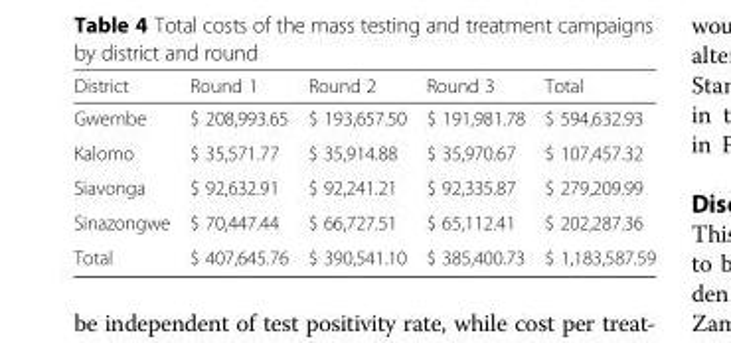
<table><thead><tr><td>District</td><td>Round 1</td><td>Round 2</td><td>Round 3</td><td>Total</td></tr></thead><tbody><tr><td>Gwembe</td><td>$ 208,993.65</td><td>$ 193,657.50</td><td>$ 191,981.78</td><td>$ 594,632.93</td></tr><tr><td>Kalomo</td><td>$ 35,571.77</td><td>$ 35,914.88</td><td>$ 35,970.67</td><td>$ 107,457.32</td></tr><tr><td>Siavonga</td><td>$ 92,632.91</td><td>$ 92,241.21</td><td>$ 92,335.87</td><td>$ 279,209.99</td></tr><tr><td>Sinazongwe</td><td>$ 70,447.44</td><td>$ 66,727.51</td><td>$ 65,112.41</td><td>$ 202,287.36</td></tr><tr><td>Total</td><td>$ 407,645.76</td><td>$ 390,541.10</td><td>$ 385,400.73</td><td>$ 1,183,587.59</td></tr></tbody></table>